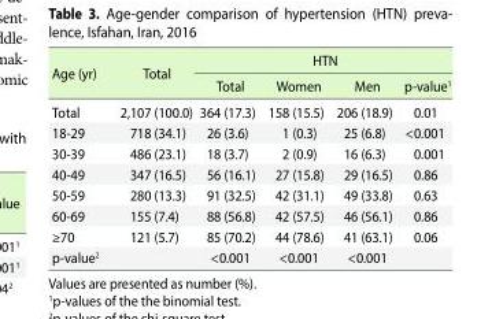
<table><thead><tr><td rowspan="2">Age (yr)</td><td rowspan="2">Total</td><td colspan="4">HTN</td></tr><tr><td>Total</td><td>Women</td><td>Men</td><td>p-value<sup>1</sup></td></tr></thead><tbody><tr><td>Total</td><td>2,107 (100.0)</td><td>364 (17.3)</td><td>158 (15.5)</td><td>206 (18.9)</td><td>0.01</td></tr><tr><td>18-29</td><td>718 (34.1)</td><td>26 (3.6)</td><td>1 (0.3)</td><td>25 (6.8)</td><td>&lt;0.001</td></tr><tr><td>30-39</td><td>486 (23.1)</td><td>18 (3.7)</td><td>2 (0.9)</td><td>16 (6.3)</td><td>0.001</td></tr><tr><td>40-49</td><td>347 (16.5)</td><td>56 (16.1)</td><td>27 (15.8)</td><td>29 (16.5)</td><td>0.86</td></tr><tr><td>50-59</td><td>280 (13.3)</td><td>91 (32.5)</td><td>42 (31.1)</td><td>49 (33.8)</td><td>0.63</td></tr><tr><td>60-69</td><td>155 (7.4)</td><td>88 (56.8)</td><td>42 (57.5)</td><td>46 (56.1)</td><td>0.86</td></tr><tr><td>≥70</td><td>121 (5.7)</td><td>85 (70.2)</td><td>44 (78.6)</td><td>41 (63.1)</td><td>0.06</td></tr><tr><td>p-value<sup>2</sup></td><td></td><td>&lt;0.001</td><td>&lt;0.001</td><td>&lt;0.001</td><td></td></tr></tbody></table>